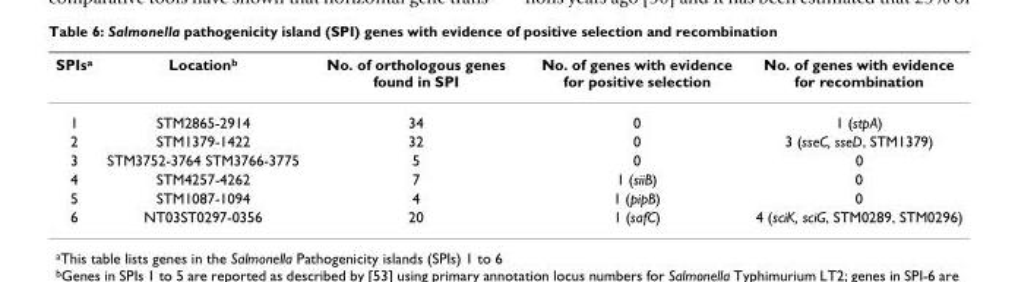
<table><thead><tr><td>SPIs<sup>a</sup></td><td>Location<sup>b</sup></td><td>No. of orthologous genes found in SPI</td><td>No. of genes with evidence for positive selection</td><td>No. of genes with evidence for recombination</td></tr></thead><tbody><tr><td>1</td><td>STM2865-2914</td><td>34</td><td>0</td><td>1 (stpA)</td></tr><tr><td>2</td><td>STM1379-1422</td><td>32</td><td>0</td><td>3 (sseC, sseD, STM1379)</td></tr><tr><td>3</td><td>STM3752-3764 STM3766-3775</td><td>5</td><td>0</td><td>0</td></tr><tr><td>4</td><td>STM4257-4262</td><td>7</td><td>1 (siiB)</td><td>0</td></tr><tr><td>5</td><td>STM1087-1094</td><td>4</td><td>1 (pipB)</td><td>0</td></tr><tr><td>6</td><td>NT03ST0297-0356</td><td>20</td><td>1 (safC)</td><td>4 (sciK, sciG, STM0289, STM0296)</td></tr></tbody></table>